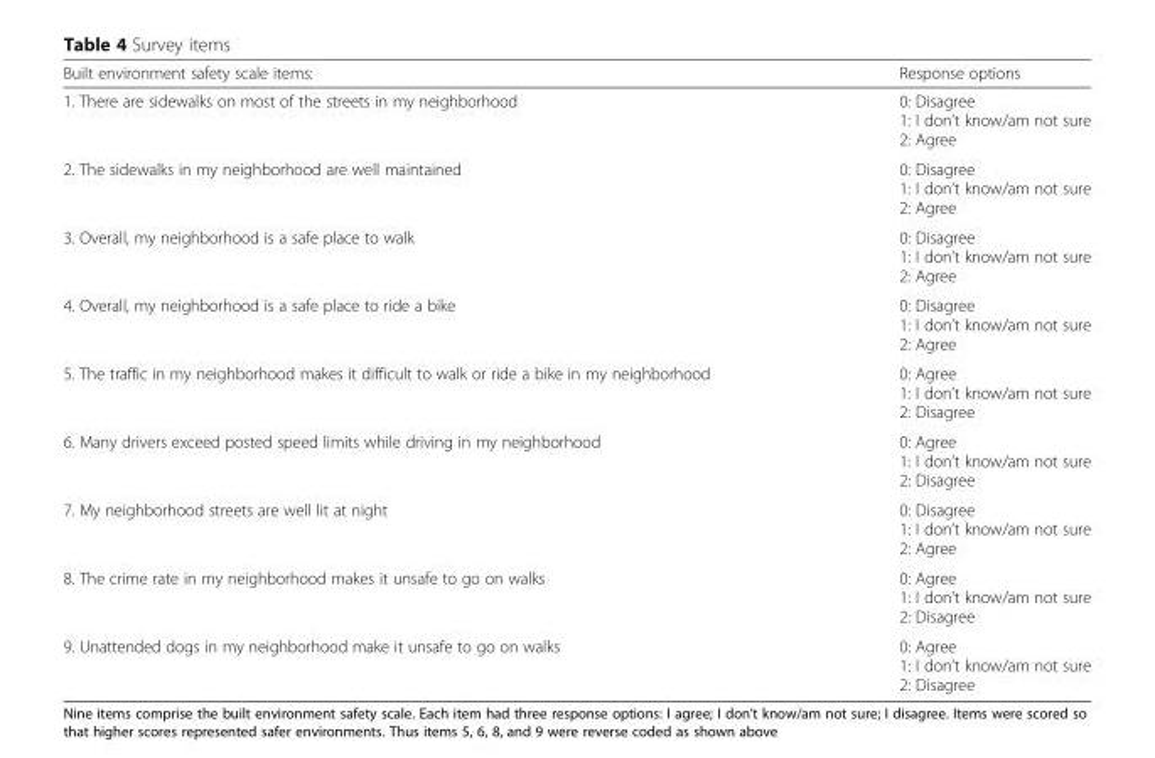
<table><thead><tr><td>Built environment safety scale items:</td><td>Response options</td></tr></thead><tbody><tr><td>1. There are sidewalks on most of the streets in my neighborhood</td><td>0: Disagree 1: I don’t know/am not sure 2: Agree</td></tr><tr><td>2. The sidewalks in my neighborhood are well maintained</td><td>0: Disagree 1: I don’t know/am not sure 2: Agree</td></tr><tr><td>3. Overall, my neighborhood is a safe place to walk</td><td>0: Disagree 1: I don’t know/am not sure 2: Agree</td></tr><tr><td>4. Overall, my neighborhood is a safe place to ride a bike</td><td>0: Disagree 1: I don’t know/am not sure 2: Agree</td></tr><tr><td>5. The traffic in my neighborhood makes it difficult to walk or ride a bike in my neighborhood</td><td>0: Agree 1: I don’t know/am not sure 2: Disagree</td></tr><tr><td>6. Many drivers exceed posted speed limits while driving in my neighborhood</td><td>0: Agree 1: I don’t know/am not sure 2: Disagree</td></tr><tr><td>7. My neighborhood streets are well lit at night</td><td>0: Disagree 1: I don’t know/am not sure 2: Agree</td></tr><tr><td>8. The crime rate in my neighborhood makes it unsafe to go on walks</td><td>0: Agree 1: I don’t know/am not sure 2: Disagree</td></tr><tr><td>9. Unattended dogs in my neighborhood make it unsafe to go on walks</td><td>0: Agree 1: I don’t know/am not sure 2: Disagree</td></tr></tbody></table>